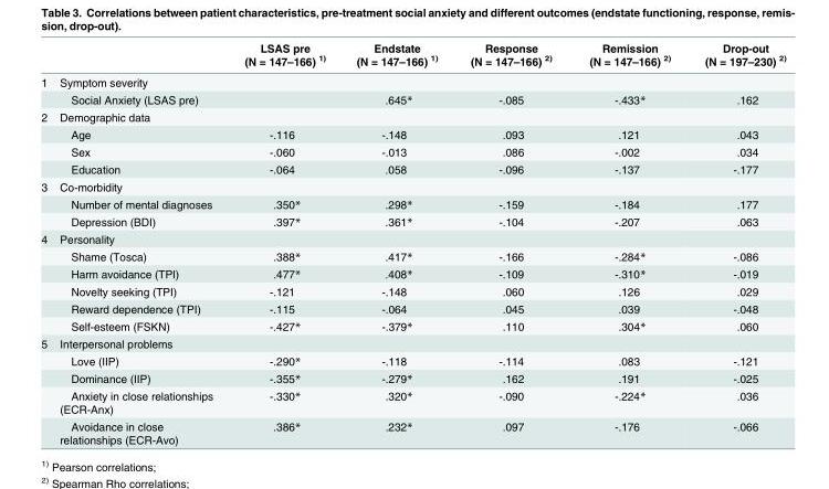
<table><thead><tr><td></td><td></td><td>LSAS pre (N = 147–166) <sup>1)</sup></td><td>Endstate (N = 147–166) <sup>1)</sup></td><td>Response (N = 147–166) <sup>2)</sup></td><td>Remission (N = 147–166) <sup>2)</sup></td><td>Drop-out (N = 197–230) <sup>2)</sup></td></tr></thead><tbody><tr><td rowspan="2">1</td><td>Symptom severity</td><td></td><td></td><td></td><td></td><td></td></tr><tr><td>Social Anxiety (LSAS pre)</td><td></td><td>.645*</td><td>-.085</td><td>-.433*</td><td>.162</td></tr><tr><td rowspan="4">2</td><td>Demographic data</td><td></td><td></td><td></td><td></td><td></td></tr><tr><td>Age</td><td>-.116</td><td>-.148</td><td>.093</td><td>.121</td><td>.043</td></tr><tr><td>Sex</td><td>-.060</td><td>-.013</td><td>.086</td><td>-.002</td><td>.034</td></tr><tr><td>Education</td><td>-.064</td><td>.058</td><td>-.096</td><td>-.137</td><td>-.177</td></tr><tr><td rowspan="3">3</td><td>Co-morbidity</td><td></td><td></td><td></td><td></td><td></td></tr><tr><td>Number of mental diagnoses</td><td>.350*</td><td>.298*</td><td>-.159</td><td>-.184</td><td>.177</td></tr><tr><td>Depression (BDI)</td><td>.397*</td><td>.361*</td><td>-.104</td><td>-.207</td><td>.063</td></tr><tr><td rowspan="6">4</td><td>Personality</td><td></td><td></td><td></td><td></td><td></td></tr><tr><td>Shame (Tosca)</td><td>.388*</td><td>.417*</td><td>-.166</td><td>-.284*</td><td>-.086</td></tr><tr><td>Harm avoidance (TPI)</td><td>.477*</td><td>.408*</td><td>-.109</td><td>-.310*</td><td>-.019</td></tr><tr><td>Novelty seeking (TPI)</td><td>-.121</td><td>-.148</td><td>.060</td><td>.126</td><td>.029</td></tr><tr><td>Reward dependence (TPI)</td><td>-.115</td><td>-.064</td><td>.045</td><td>.039</td><td>-.048</td></tr><tr><td>Self-esteem (FSKN)</td><td>-.427*</td><td>-.379*</td><td>.110</td><td>.304*</td><td>.060</td></tr><tr><td rowspan="5">5</td><td>Interpersonal problems</td><td></td><td></td><td></td><td></td><td></td></tr><tr><td>Love (IIP)</td><td>-.290*</td><td>-.118</td><td>-.114</td><td>.083</td><td>-.121</td></tr><tr><td>Dominance (IIP)</td><td>-.355*</td><td>-.279*</td><td>.162</td><td>.191</td><td>-.025</td></tr><tr><td>Anxiety in close relationships (ECR-Anx)</td><td>-.330*</td><td>.320*</td><td>-.090</td><td>-.224*</td><td>.036</td></tr><tr><td>Avoidance in close relationships (ECR-Avo)</td><td>.386*</td><td>.232*</td><td>.097</td><td>-.176</td><td>-.066</td></tr></tbody></table>